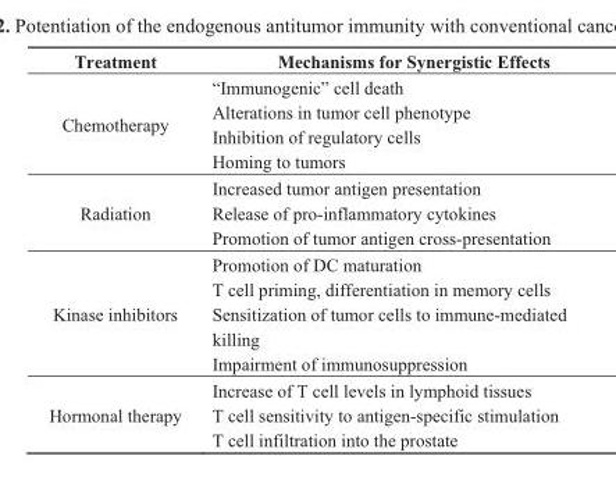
<table><thead><tr><td>Treatment</td><td>Mechanisms for Synergistic Effects</td></tr></thead><tbody><tr><td>Chemotherapy</td><td>“Immunogenic” cell death Alterations in tumor cell phenotype Inhibition of regulatory cells Homing to tumors</td></tr><tr><td>Radiation</td><td>Increased tumor antigen presentation Release of pro-inflammatory cytokines Promotion of tumor antigen cross-presentation</td></tr><tr><td>Kinase inhibitors</td><td>Promotion of DC maturation T cell priming, differentiation in memory cells Sensitization of tumor cells to immune-mediated killing Impairment of immunosuppression</td></tr><tr><td>Hormonal therapy</td><td>Increase of T cell levels in lymphoid tissues T cell sensitivity to antigen-specific stimulation T cell infiltration into the prostate</td></tr></tbody></table>